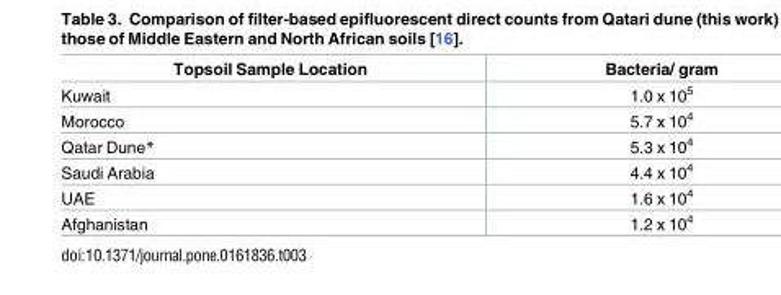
<table><thead><tr><td>Topsoil Sample Location</td><td>Bacteria/ gram</td></tr></thead><tbody><tr><td>Kuwait</td><td>1.0 x 10<sup>5</sup></td></tr><tr><td>Morocco</td><td>5.7 x 10<sup>4</sup></td></tr><tr><td>Qatar Dune*</td><td>5.3 x 10<sup>4</sup></td></tr><tr><td>Saudi Arabia</td><td>4.4 x 10<sup>4</sup></td></tr><tr><td>UAE</td><td>1.6 x 10<sup>4</sup></td></tr><tr><td>Afghanistan</td><td>1.2 x 10<sup>4</sup></td></tr></tbody></table>